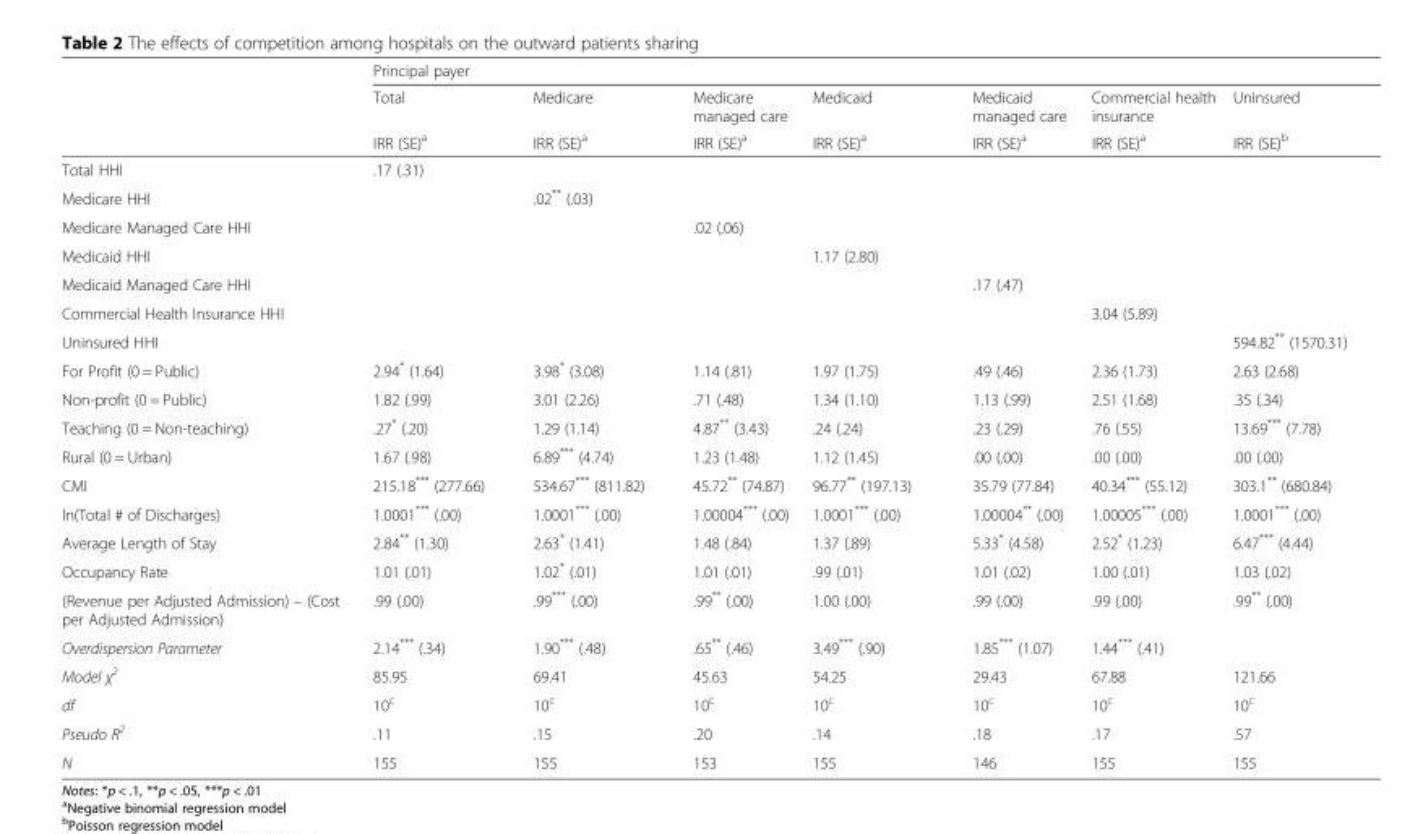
<table><thead><tr><td rowspan="3"></td><td colspan="7">Principal payer</td></tr><tr><td rowspan="2">Total IRR (SE)<sup>a</sup></td><td rowspan="2">Medicare IRR (SE)<sup>a</sup></td><td rowspan="2">Medicare managed care IRR (SE)<sup>a</sup></td><td rowspan="2">Medicaid IRR (SE)<sup>a</sup></td><td rowspan="2">Medicaid managed care IRR (SE)<sup>a</sup></td><td rowspan="2">Commercial health insurance IRR (SE)<sup>a</sup></td><td rowspan="2">Uninsured IRR (SE)<sup>b</sup></td></tr><tr></tr></thead><tbody><tr><td>Total HHI</td><td>.17 (.31)</td><td></td><td></td><td></td><td></td><td></td><td></td></tr><tr><td>Medicare HHI</td><td></td><td>.02** (.03)</td><td></td><td></td><td></td><td></td><td></td></tr><tr><td>Medicare Managed Care HHI</td><td></td><td></td><td>.02 (.06)</td><td></td><td></td><td></td><td></td></tr><tr><td>Medicaid HHI</td><td></td><td></td><td></td><td>1.17 (2.80)</td><td></td><td></td><td></td></tr><tr><td>Medicaid Managed Care HHI</td><td></td><td></td><td></td><td></td><td>.17 (.47)</td><td></td><td></td></tr><tr><td>Commercial Health Insurance HHI</td><td></td><td></td><td></td><td></td><td></td><td>3.04 (5.89)</td><td></td></tr><tr><td>Uninsured HHI</td><td></td><td></td><td></td><td></td><td></td><td></td><td>594.82** (1570.31)</td></tr><tr><td>For Profit (0 = Public)</td><td>2.94* (1.64)</td><td>3.98* (3.08)</td><td>1.14 (.81)</td><td>1.97 (1.75)</td><td>.49 (.46)</td><td>2.36 (1.73)</td><td>2.63 (2.68)</td></tr><tr><td>Non-profit (0 = Public)</td><td>1.82 (.99)</td><td>3.01 (2.26)</td><td>.71 (.48)</td><td>1.34 (1.10)</td><td>1.13 (.99)</td><td>2.51 (1.68)</td><td>.35 (.34)</td></tr><tr><td>Teaching (0 = Non-teaching)</td><td>.27* (.20)</td><td>1.29 (1.14)</td><td>4.87** (3.43)</td><td>.24 (.24)</td><td>.23 (.29)</td><td>.76 (.55)</td><td>13.69*** (7.78)</td></tr><tr><td>Rural (0 = Urban)</td><td>1.67 (.98)</td><td>6.89*** (4.74)</td><td>1.23 (1.48)</td><td>1.12 (1.45)</td><td>.00 (.00)</td><td>.00 (.00)</td><td>.00 (.00)</td></tr><tr><td>CMI</td><td>215.18*** (277.66)</td><td>534.67*** (811.82)</td><td>45.72** (74.87)</td><td>96.77** (197.13)</td><td>35.79 (77.84)</td><td>40.34*** (55.12)</td><td>303.1** (680.84)</td></tr><tr><td>ln(Total # of Discharges)</td><td>1.0001*** (.00)</td><td>1.0001*** (.00)</td><td>1.00004*** (.00)</td><td>1.0001*** (.00)</td><td>1.00004** (.00)</td><td>1.00005*** (.00)</td><td>1.0001*** (.00)</td></tr><tr><td>Average Length of Stay</td><td>2.84** (1.30)</td><td>2.63* (1.41)</td><td>1.48 (.84)</td><td>1.37 (.89)</td><td>5.33* (4.58)</td><td>2.52* (1.23)</td><td>6.47*** (4.44)</td></tr><tr><td>Occupancy Rate</td><td>1.01 (.01)</td><td>1.02* (.01)</td><td>1.01 (.01)</td><td>.99 (.01)</td><td>1.01 (.02)</td><td>1.00 (.01)</td><td>1.03 (.02)</td></tr><tr><td>(Revenue per Adjusted Admission) – (Cost per Adjusted Admission)</td><td>.99 (.00)</td><td>.99*** (.00)</td><td>.99** (.00)</td><td>1.00 (.00)</td><td>.99 (.00)</td><td>.99 (.00)</td><td>.99** (.00)</td></tr><tr><td>Overdispersion Parameter</td><td>2.14*** (.34)</td><td>1.90*** (.48)</td><td>.65** (.46)</td><td>3.49*** (.90)</td><td>1.85*** (1.07)</td><td>1.44*** (.41)</td><td></td></tr><tr><td>Model χ<sup>2</sup></td><td>85.95</td><td>69.41</td><td>45.63</td><td>54.25</td><td>29.43</td><td>67.88</td><td>121.66</td></tr><tr><td>df</td><td>10<sup>c</sup></td><td>10<sup>c</sup></td><td>10<sup>c</sup></td><td>10<sup>c</sup></td><td>10<sup>c</sup></td><td>10<sup>c</sup></td><td>10<sup>c</sup></td></tr><tr><td>Pseudo R<sup>2</sup></td><td>.11</td><td>.15</td><td>.20</td><td>.14</td><td>.18</td><td>.17</td><td>.57</td></tr><tr><td>N</td><td>155</td><td>155</td><td>153</td><td>155</td><td>146</td><td>155</td><td>155</td></tr></tbody></table>